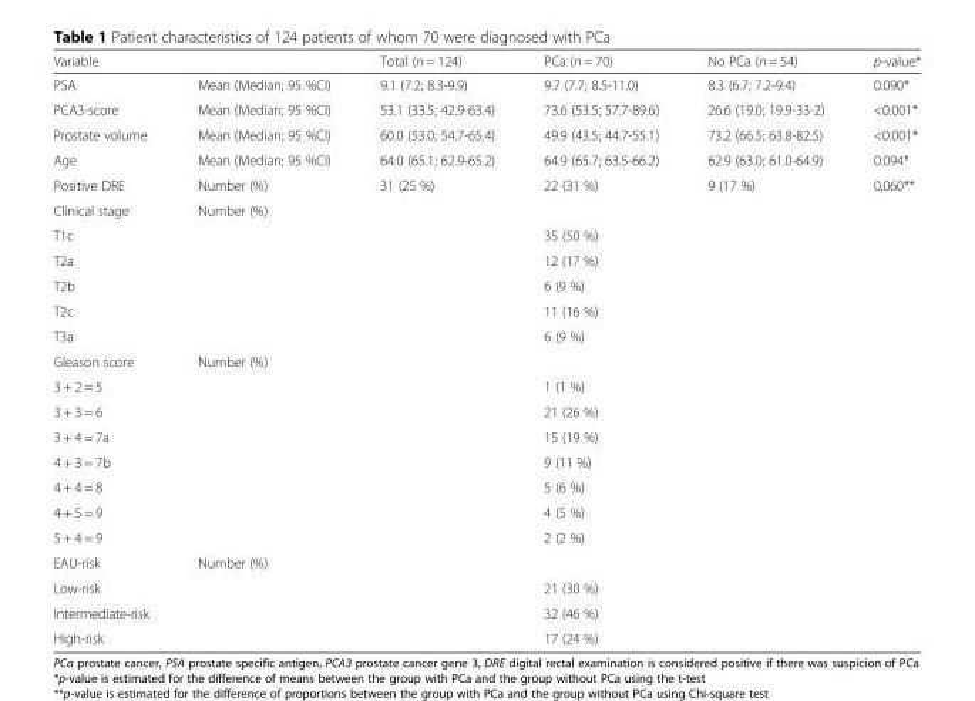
<table><thead><tr><td>Variable</td><td></td><td>Total (n = 124)</td><td>PCa (n = 70)</td><td>No PCa (n = 54)</td><td>p-value*</td></tr></thead><tbody><tr><td>PSA</td><td>Mean (Median; 95 %CI)</td><td>9.1 (7.2; 8.3-9.9)</td><td>9.7 (7.7; 8.5-11.0)</td><td>8.3 (6.7; 7.2-9.4)</td><td>0.090*</td></tr><tr><td>PCA3-score</td><td>Mean (Median; 95 %CI)</td><td>53.1 (33.5; 42.9-63.4)</td><td>73.6 (53.5; 57.7-89.6)</td><td>26.6 (19.0; 19.9-33-2)</td><td>&lt;0.001*</td></tr><tr><td>Prostate volume</td><td>Mean (Median; 95 %CI)</td><td>60.0 (53.0; 54.7-65.4)</td><td>49.9 (43.5; 44.7-55.1)</td><td>73.2 (66.5; 63.8-82.5)</td><td>&lt;0.001*</td></tr><tr><td>Age</td><td>Mean (Median; 95 %CI)</td><td>64.0 (65.1; 62.9-65.2)</td><td>64.9 (65.7; 63.5-66.2)</td><td>62.9 (63.0; 61.0-64.9)</td><td>0.094*</td></tr><tr><td>Positive DRE</td><td>Number (%)</td><td>31 (25 %)</td><td>22 (31 %)</td><td>9 (17 %)</td><td>0,060**</td></tr><tr><td>Clinical stage</td><td>Number (%)</td><td></td><td></td><td></td><td></td></tr><tr><td>T1c</td><td></td><td></td><td>35 (50 %)</td><td></td><td></td></tr><tr><td>T2a</td><td></td><td></td><td>12 (17 %)</td><td></td><td></td></tr><tr><td>T2b</td><td></td><td></td><td>6 (9 %)</td><td></td><td></td></tr><tr><td>T2c</td><td></td><td></td><td>11 (16 %)</td><td></td><td></td></tr><tr><td>T3a</td><td></td><td></td><td>6 (9 %)</td><td></td><td></td></tr><tr><td>Gleason score</td><td>Number (%)</td><td></td><td></td><td></td><td></td></tr><tr><td>3 + 2 = 5</td><td></td><td></td><td>1 (1 %)</td><td></td><td></td></tr><tr><td>3 + 3 = 6</td><td></td><td></td><td>21 (26 %)</td><td></td><td></td></tr><tr><td>3 + 4 = 7a</td><td></td><td></td><td>15 (19 %)</td><td></td><td></td></tr><tr><td>4 + 3 = 7b</td><td></td><td></td><td>9 (11 %)</td><td></td><td></td></tr><tr><td>4 + 4 = 8</td><td></td><td></td><td>5 (6 %)</td><td></td><td></td></tr><tr><td>4 + 5 = 9</td><td></td><td></td><td>4 (5 %)</td><td></td><td></td></tr><tr><td>5 + 4 = 9</td><td></td><td></td><td>2 (2 %)</td><td></td><td></td></tr><tr><td>EAU-risk</td><td>Number (%)</td><td></td><td></td><td></td><td></td></tr><tr><td>Low-risk</td><td></td><td></td><td>21 (30 %)</td><td></td><td></td></tr><tr><td>Intermediate-risk</td><td></td><td></td><td>32 (46 %)</td><td></td><td></td></tr><tr><td>High-risk</td><td></td><td></td><td>17 (24 %)</td><td></td><td></td></tr></tbody></table>